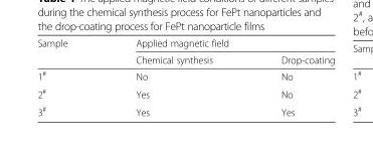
<table><thead><tr><td rowspan="2">Sample</td><td colspan="2">Applied magnetic field</td></tr><tr><td>Chemical synthesis</td><td>Drop-coating</td></tr></thead><tbody><tr><td>1<sup>#</sup></td><td>No</td><td>No</td></tr><tr><td>2<sup>#</sup></td><td>Yes</td><td>No</td></tr><tr><td>3<sup>#</sup></td><td>Yes</td><td>Yes</td></tr></tbody></table>